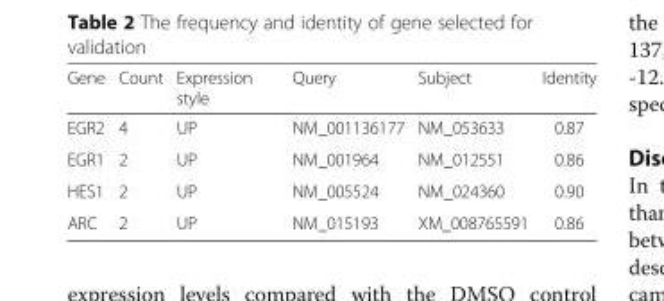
<table><thead><tr><td>Gene</td><td>Count</td><td>Expression style</td><td>Query</td><td>Subject</td><td>Identity</td></tr></thead><tbody><tr><td>EGR2</td><td>4</td><td>UP</td><td>NM_001136177</td><td>NM_053633</td><td>0.87</td></tr><tr><td>EGR1</td><td>2</td><td>UP</td><td>NM_001964</td><td>NM_012551</td><td>0.86</td></tr><tr><td>HES1</td><td>2</td><td>UP</td><td>NM_005524</td><td>NM_024360</td><td>0.90</td></tr><tr><td>ARC</td><td>2</td><td>UP</td><td>NM_015193</td><td>XM_008765591</td><td>0.86</td></tr></tbody></table>